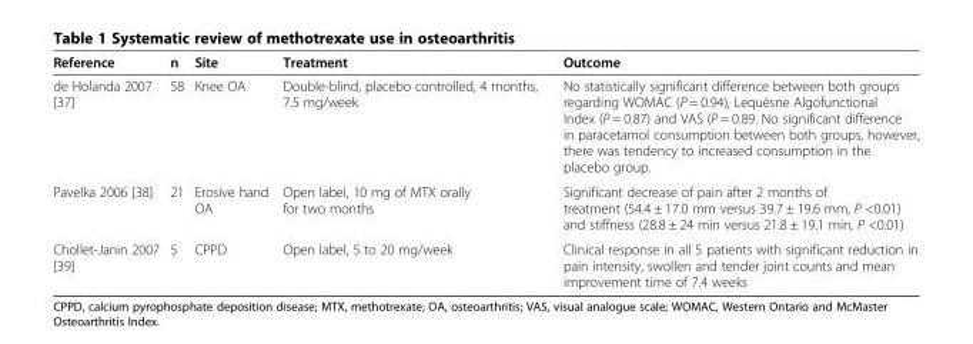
<table><thead><tr><td>Reference</td><td>n</td><td>Site</td><td>Treatment</td><td>Outcome</td></tr></thead><tbody><tr><td>de Holanda 2007 [37]</td><td>58</td><td>Knee OA</td><td>Double-blind, placebo controlled, 4 months, 7.5 mg/week</td><td>No statistically significant difference between both groups regarding WOMAC (P = 0.94), Lequèsne Algofunctional Index (P = 0.87) and VAS (P = 0.89. No significant difference in paracetamol consumption between both groups, however, there was tendency to increased consumption in the placebo group.</td></tr><tr><td>Pavelka 2006 [38]</td><td>21</td><td>Erosive hand OA</td><td>Open label, 10 mg of MTX orally for two months</td><td>Significant decrease of pain after 2 months of treatment (54.4 ± 17.0 mm versus 39.7 ± 19.6 mm, P &lt;0.01) and stiffness (28.8 ± 24 min versus 21.8 ± 19.1 min, P &lt;0.01)</td></tr><tr><td>Chollet-Janin 2007 [39]</td><td>5</td><td>CPPD</td><td>Open label, 5 to 20 mg/week</td><td>Clinical response in all 5 patients with significant reduction in pain intensity, swollen and tender joint counts and mean improvement time of 7.4 weeks</td></tr></tbody></table>